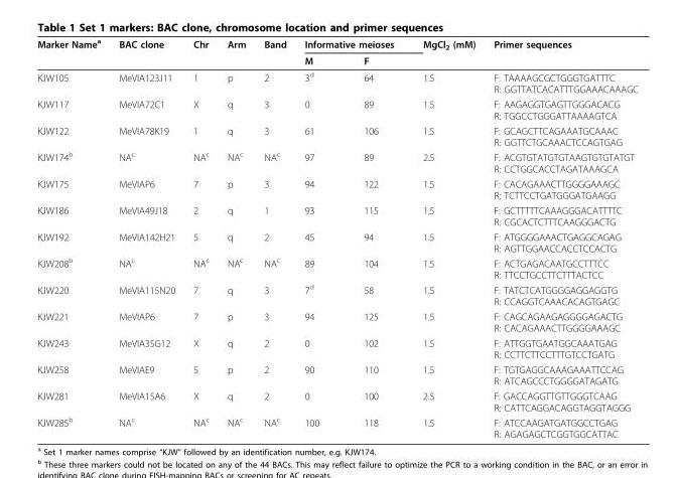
<table><thead><tr><td rowspan="2">Marker Name<sup>a</sup></td><td rowspan="2">BAC clone</td><td rowspan="2">Chr</td><td rowspan="2">Arm</td><td rowspan="2">Band</td><td colspan="2">Informative meioses</td><td rowspan="2">MgCl<sub>2</sub> (mM)</td><td rowspan="2">Primer sequences</td></tr><tr><td>M</td><td>F</td></tr></thead><tbody><tr><td>KJW105</td><td>MeVIA123J11</td><td>1</td><td>p</td><td>2</td><td>3<sup>d</sup></td><td>64</td><td>1.5</td><td>F: TAAAAGCGCTGGGTGATTTC R: GGTTATCACATTTGGAAACAAAGC</td></tr><tr><td>KJW117</td><td>MeVIA72C1</td><td>X</td><td>q</td><td>3</td><td>0</td><td>89</td><td>1.5</td><td>F: AAGAGGTGAGTTGGGACACG R: TGGCCTGGGATTAAAAGTCA</td></tr><tr><td>KJW122</td><td>MeVIA78K19</td><td>1</td><td>q</td><td>3</td><td>61</td><td>106</td><td>1.5</td><td>F: GCAGCTTCAGAAATGCAAAC R: GGTTCTGCAAACTCCAGTGAG</td></tr><tr><td>KJW174<sup>b</sup></td><td>NA<sup>c</sup></td><td>NA<sup>c</sup></td><td>NA<sup>c</sup></td><td>NA<sup>c</sup></td><td>97</td><td>89</td><td>2.5</td><td>F: ACGTGTATGTGTAAGTGTGTATGT R: CCTGGCACCTAGATAAAGCA</td></tr><tr><td>KJW175</td><td>MeVIAP6</td><td>7</td><td>p</td><td>3</td><td>94</td><td>122</td><td>1.5</td><td>F: CACAGAAACTTGGGGAAAGC R: TCTTCCTGATGGGATGAAGG</td></tr><tr><td>KJW186</td><td>MeVIA49J18</td><td>2</td><td>q</td><td>1</td><td>93</td><td>115</td><td>1.5</td><td>F: GCTTTTTCAAAGGGACATTTTC R: CGCACTCTTTCAAGGGACTG</td></tr><tr><td>KJW192</td><td>MeVIA142H21</td><td>5</td><td>q</td><td>2</td><td>45</td><td>94</td><td>1.5</td><td>F: ATGGGGAAACTGAGGCAGAG R: AGTTGGAACCACCTCCACTG</td></tr><tr><td>KJW208<sup>b</sup></td><td>NA<sup>c</sup></td><td>NA<sup>c</sup></td><td>NA<sup>c</sup></td><td>NA<sup>c</sup></td><td>89</td><td>104</td><td>1.5</td><td>F: ACTGAGACAATGCCTTTCC R: TTCCTGCCTTCTTTACTCC</td></tr><tr><td>KJW220</td><td>MeVIA115N20</td><td>7</td><td>q</td><td>3</td><td>7<sup>d</sup></td><td>58</td><td>1.5</td><td>F: TATCTCATGGGGAGGAGGTG R: CCAGGTCAAACACAGTGAGC</td></tr><tr><td>KJW221</td><td>MeVIAP6</td><td>7</td><td>p</td><td>3</td><td>94</td><td>125</td><td>1.5</td><td>F: CAGCAGAAGAGGGGAGACTG R: CACAGAAACTTGGGGAAAGC</td></tr><tr><td>KJW243</td><td>MeVIA35G12</td><td>X</td><td>q</td><td>2</td><td>0</td><td>102</td><td>1.5</td><td>F: ATTGGTGAATGGCAAATGAG R: CCTTCTTCCTTTGTCCTGATG</td></tr><tr><td>KJW258</td><td>MeVIAE9</td><td>5</td><td>p</td><td>2</td><td>90</td><td>110</td><td>1.5</td><td>F: TGTGAGGCAAAGAAATTCCAG R: ATCAGCCCTGGGGATAGATG</td></tr><tr><td>KJW281</td><td>MeVIA15A6</td><td>X</td><td>q</td><td>2</td><td>0</td><td>100</td><td>2.5</td><td>F: GACCAGGTTGTTGGGTCAAG R: CATTCAGGACAGGTAGGTAGGG</td></tr><tr><td>KJW285<sup>b</sup></td><td>NA<sup>c</sup></td><td>NA<sup>c</sup></td><td>NA<sup>c</sup></td><td>NA<sup>c</sup></td><td>100</td><td>118</td><td>1.5</td><td>F: ATCCAAGATGATGGCCTGAG R: AGAGAGCTCGGTGGCATTAC</td></tr></tbody></table>